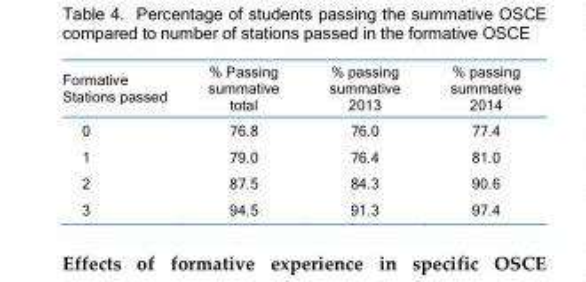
<table><thead><tr><td>Formative Stations passed</td><td>% Passing summative total</td><td>% passing summative 2013</td><td>% passing summative 2014</td></tr></thead><tbody><tr><td>0</td><td>76.8</td><td>76.0</td><td>77.4</td></tr><tr><td>1</td><td>79.0</td><td>76.4</td><td>81.0</td></tr><tr><td>2</td><td>87.5</td><td>84.3</td><td>90.6</td></tr><tr><td>3</td><td>94.5</td><td>91.3</td><td>97.4</td></tr></tbody></table>